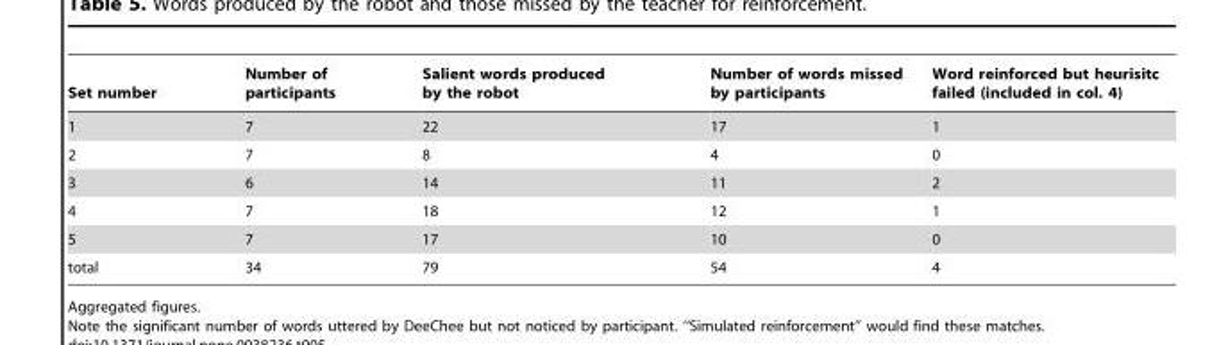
<table><thead><tr><td>Set number</td><td>Number of participants</td><td>Salient words produced by the robot</td><td>Number of words missed by participants</td><td>Word reinforced but heurisitc failed (included in col. 4)</td></tr></thead><tbody><tr><td>1</td><td>7</td><td>22</td><td>17</td><td>1</td></tr><tr><td>2</td><td>7</td><td>8</td><td>4</td><td>0</td></tr><tr><td>3</td><td>6</td><td>14</td><td>11</td><td>2</td></tr><tr><td>4</td><td>7</td><td>18</td><td>12</td><td>1</td></tr><tr><td>5</td><td>7</td><td>17</td><td>10</td><td>0</td></tr><tr><td>total</td><td>34</td><td>79</td><td>54</td><td>4</td></tr></tbody></table>